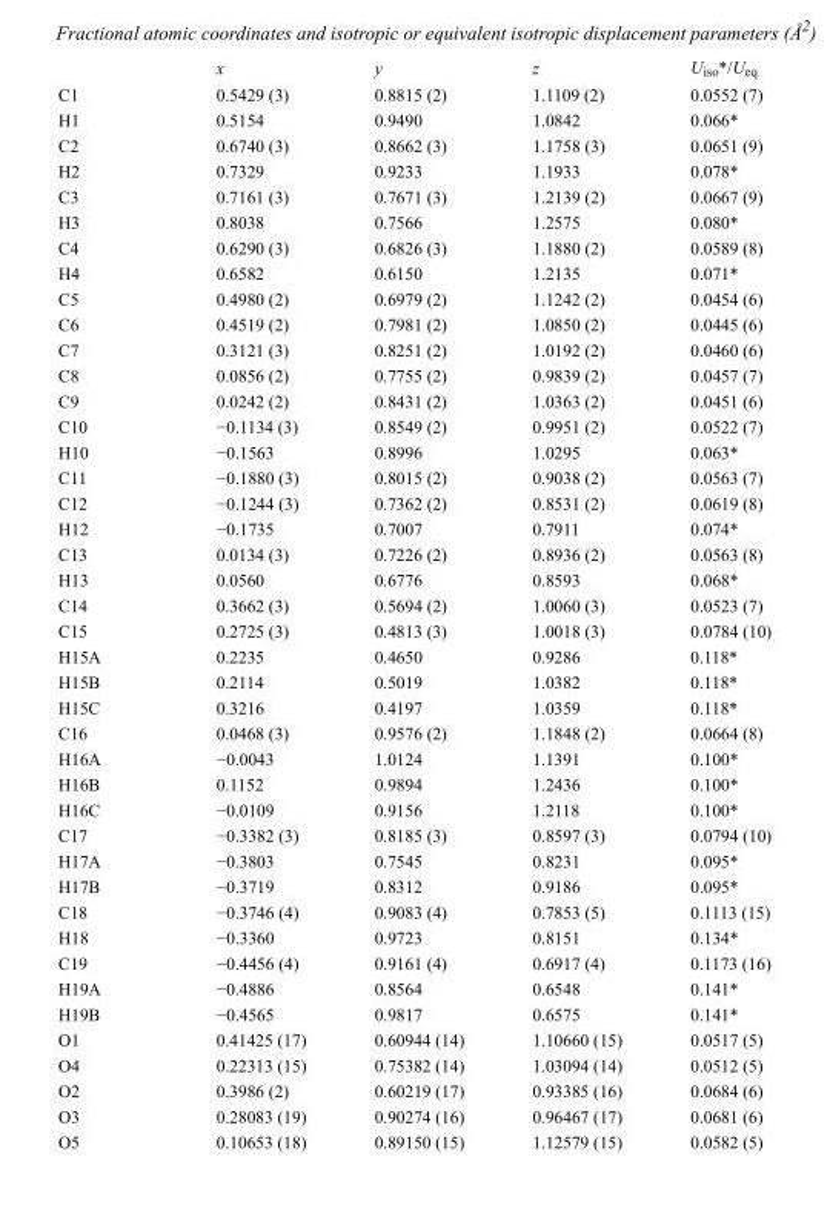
<table><thead><tr><td></td><td>x</td><td>y</td><td>z</td><td>U<sub>iso</sub>*/U<sub>eq</sub></td></tr></thead><tbody><tr><td>C1</td><td>0.5429 (3)</td><td>0.8815 (2)</td><td>1.1109 (2)</td><td>0.0552 (7)</td></tr><tr><td>H1</td><td>0.5154</td><td>0.9490</td><td>1.0842</td><td>0.066*</td></tr><tr><td>C2</td><td>0.6740 (3)</td><td>0.8662 (3)</td><td>1.1758 (3)</td><td>0.0651 (9)</td></tr><tr><td>H2</td><td>0.7329</td><td>0.9233</td><td>1.1933</td><td>0.078*</td></tr><tr><td>C3</td><td>0.7161 (3)</td><td>0.7671 (3)</td><td>1.2139 (2)</td><td>0.0667 (9)</td></tr><tr><td>H3</td><td>0.8038</td><td>0.7566</td><td>1.2575</td><td>0.080*</td></tr><tr><td>C4</td><td>0.6290 (3)</td><td>0.6826 (3)</td><td>1.1880 (2)</td><td>0.0589 (8)</td></tr><tr><td>H4</td><td>0.6582</td><td>0.6150</td><td>1.2135</td><td>0.071*</td></tr><tr><td>C5</td><td>0.4980 (2)</td><td>0.6979 (2)</td><td>1.1242 (2)</td><td>0.0454 (6)</td></tr><tr><td>C6</td><td>0.4519 (2)</td><td>0.7981 (2)</td><td>1.0850 (2)</td><td>0.0445 (6)</td></tr><tr><td>C7</td><td>0.3121 (3)</td><td>0.8251 (2)</td><td>1.0192 (2)</td><td>0.0460 (6)</td></tr><tr><td>C8</td><td>0.0856 (2)</td><td>0.7755 (2)</td><td>0.9839 (2)</td><td>0.0457 (7)</td></tr><tr><td>C9</td><td>0.0242 (2)</td><td>0.8431 (2)</td><td>1.0363 (2)</td><td>0.0451 (6)</td></tr><tr><td>C10</td><td>−0.1134 (3)</td><td>0.8549 (2)</td><td>0.9951 (2)</td><td>0.0522 (7)</td></tr><tr><td>H10</td><td>−0.1563</td><td>0.8996</td><td>1.0295</td><td>0.063*</td></tr><tr><td>C11</td><td>−0.1880 (3)</td><td>0.8015 (2)</td><td>0.9038 (2)</td><td>0.0563 (7)</td></tr><tr><td>C12</td><td>−0.1244 (3)</td><td>0.7362 (2)</td><td>0.8531 (2)</td><td>0.0619 (8)</td></tr><tr><td>H12</td><td>−0.1735</td><td>0.7007</td><td>0.7911</td><td>0.074*</td></tr><tr><td>C13</td><td>0.0134 (3)</td><td>0.7226 (2)</td><td>0.8936 (2)</td><td>0.0563 (8)</td></tr><tr><td>H13</td><td>0.0560</td><td>0.6776</td><td>0.8593</td><td>0.068*</td></tr><tr><td>C14</td><td>0.3662 (3)</td><td>0.5694 (2)</td><td>1.0060 (3)</td><td>0.0523 (7)</td></tr><tr><td>C15</td><td>0.2725 (3)</td><td>0.4813 (3)</td><td>1.0018 (3)</td><td>0.0784 (10)</td></tr><tr><td>H15A</td><td>0.2235</td><td>0.4650</td><td>0.9286</td><td>0.118*</td></tr><tr><td>H15B</td><td>0.2114</td><td>0.5019</td><td>1.0382</td><td>0.118*</td></tr><tr><td>H15C</td><td>0.3216</td><td>0.4197</td><td>1.0359</td><td>0.118*</td></tr><tr><td>C16</td><td>0.0468 (3)</td><td>0.9576 (2)</td><td>1.1848 (2)</td><td>0.0664 (8)</td></tr><tr><td>H16A</td><td>−0.0043</td><td>1.0124</td><td>1.1391</td><td>0.100*</td></tr><tr><td>H16B</td><td>0.1152</td><td>0.9894</td><td>1.2436</td><td>0.100*</td></tr><tr><td>H16C</td><td>−0.0109</td><td>0.9156</td><td>1.2118</td><td>0.100*</td></tr><tr><td>C17</td><td>−0.3382 (3)</td><td>0.8185 (3)</td><td>0.8597 (3)</td><td>0.0794 (10)</td></tr><tr><td>H17A</td><td>−0.3803</td><td>0.7545</td><td>0.8231</td><td>0.095*</td></tr><tr><td>H17B</td><td>−0.3719</td><td>0.8312</td><td>0.9186</td><td>0.095*</td></tr><tr><td>C18</td><td>−0.3746 (4)</td><td>0.9083 (4)</td><td>0.7853 (5)</td><td>0.1113 (15)</td></tr><tr><td>H18</td><td>−0.3360</td><td>0.9723</td><td>0.8151</td><td>0.134*</td></tr><tr><td>C19</td><td>−0.4456 (4)</td><td>0.9161 (4)</td><td>0.6917 (4)</td><td>0.1173 (16)</td></tr><tr><td>H19A</td><td>−0.4886</td><td>0.8564</td><td>0.6548</td><td>0.141*</td></tr><tr><td>H19B</td><td>−0.4565</td><td>0.9817</td><td>0.6575</td><td>0.141*</td></tr><tr><td>O1</td><td>0.41425 (17)</td><td>0.60944 (14)</td><td>1.10660 (15)</td><td>0.0517 (5)</td></tr><tr><td>O4</td><td>0.22313 (15)</td><td>0.75382 (14)</td><td>1.03094 (14)</td><td>0.0512 (5)</td></tr><tr><td>O2</td><td>0.3986 (2)</td><td>0.60219 (17)</td><td>0.93385 (16)</td><td>0.0684 (6)</td></tr><tr><td>O3</td><td>0.28083 (19)</td><td>0.90274 (16)</td><td>0.96467 (17)</td><td>0.0681 (6)</td></tr><tr><td>O5</td><td>0.10653 (18)</td><td>0.89150 (15)</td><td>1.12579 (15)</td><td>0.0582 (5)</td></tr></tbody></table>